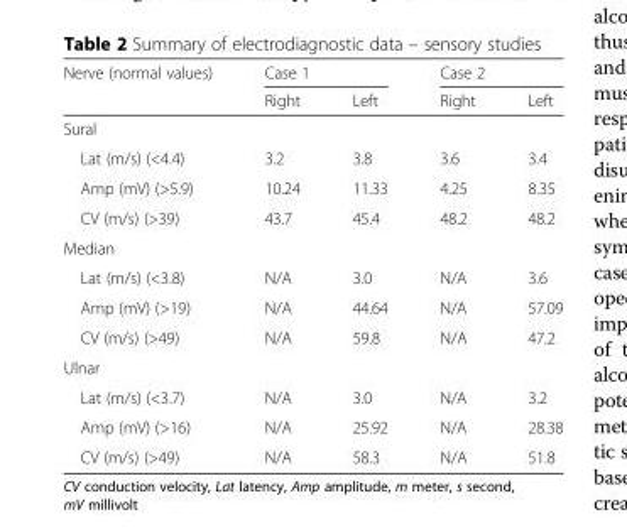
<table><thead><tr><td rowspan="2">Nerve (normal values)</td><td colspan="2">Case 1</td><td colspan="2">Case 2</td></tr><tr><td>Right</td><td>Left</td><td>Right</td><td>Left</td></tr></thead><tbody><tr><td colspan="5">Sural</td></tr><tr><td>Lat (m/s) (&lt;4.4)</td><td>3.2</td><td>3.8</td><td>3.6</td><td>3.4</td></tr><tr><td>Amp (mV) (&gt;5.9)</td><td>10.24</td><td>11.33</td><td>4.25</td><td>8.35</td></tr><tr><td>CV (m/s) (&gt;39)</td><td>43.7</td><td>45.4</td><td>48.2</td><td>48.2</td></tr><tr><td colspan="5">Median</td></tr><tr><td>Lat (m/s) (&lt;3.8)</td><td>N/A</td><td>3.0</td><td>N/A</td><td>3.6</td></tr><tr><td>Amp (mV) (&gt;19)</td><td>N/A</td><td>44.64</td><td>N/A</td><td>57.09</td></tr><tr><td>CV (m/s) (&gt;49)</td><td>N/A</td><td>59.8</td><td>N/A</td><td>47.2</td></tr><tr><td colspan="5">Ulnar</td></tr><tr><td>Lat (m/s) (&lt;3.7)</td><td>N/A</td><td>3.0</td><td>N/A</td><td>3.2</td></tr><tr><td>Amp (mV) (&gt;16)</td><td>N/A</td><td>25.92</td><td>N/A</td><td>28.38</td></tr><tr><td>CV (m/s) (&gt;49)</td><td>N/A</td><td>58.3</td><td>N/A</td><td>51.8</td></tr></tbody></table>